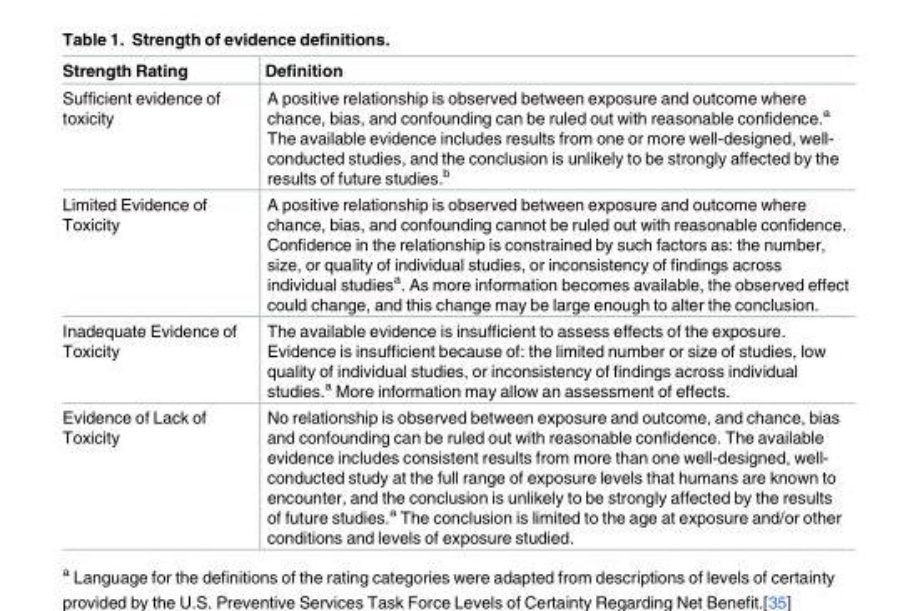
<table><thead><tr><td>Strength Rating</td><td>Definition</td></tr></thead><tbody><tr><td>Sufficient evidence of toxicity</td><td>A positive relationship is observed between exposure and outcome where chance, bias, and confounding can be ruled out with reasonable confidence.<sup>a</sup> The available evidence includes results from one or more well-designed, well- conducted studies, and the conclusion is unlikely to be strongly affected by the results of future studies.<sup>b</sup></td></tr><tr><td>Limited Evidence of Toxicity</td><td>A positive relationship is observed between exposure and outcome where chance, bias, and confounding cannot be ruled out with reasonable confidence. Confidence in the relationship is constrained by such factors as: the number, size, or quality of individual studies, or inconsistency of findings across individual studies<sup>a</sup>. As more information becomes available, the observed effect could change, and this change may be large enough to alter the conclusion.</td></tr><tr><td>Inadequate Evidence of Toxicity</td><td>The available evidence is insufficient to assess effects of the exposure. Evidence is insufficient because of: the limited number or size of studies, low quality of individual studies, or inconsistency of findings across individual studies.<sup>a</sup> More information may allow an assessment of effects.</td></tr><tr><td>Evidence of Lack of Toxicity</td><td>No relationship is observed between exposure and outcome, and chance, bias and confounding can be ruled out with reasonable confidence. The available evidence includes consistent results from more than one well-designed, well- conducted study at the full range of exposure levels that humans are known to encounter, and the conclusion is unlikely to be strongly affected by the results of future studies.<sup>a</sup> The conclusion is limited to the age at exposure and/or other conditions and levels of exposure studied.</td></tr></tbody></table>